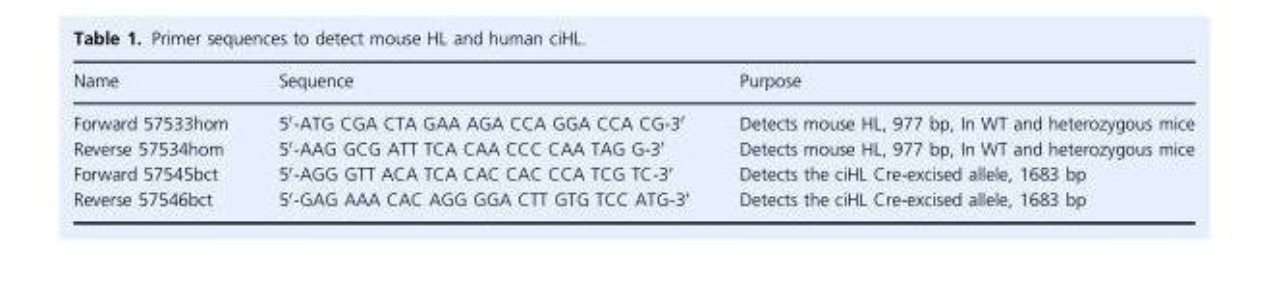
<table><thead><tr><td>Name</td><td>Sequence</td><td>Purpose</td></tr></thead><tbody><tr><td>Forward 57533hom</td><td>5′-ATG CGA CTA GAA AGA CCA GGA CCA CG-3′</td><td>Detects mouse HL, 977 bp, In WT and heterozygous mice</td></tr><tr><td>Reverse 57534hom</td><td>5′-AAG GCG ATT TCA CAA CCC CAA TAG G-3′</td><td>Detects mouse HL, 977 bp, In WT and heterozygous mice</td></tr><tr><td>Forward 57545bct</td><td>5′-AGG GTT ACA TCA CAC CAC CCA TCG TC-3′</td><td>Detects the ciHL Cre-excised allele, 1683 bp</td></tr><tr><td>Reverse 57546bct</td><td>5′-GAG AAA CAC AGG GGA CTT GTG TCC ATG-3′</td><td>Detects the ciHL Cre-excised allele, 1683 bp</td></tr></tbody></table>